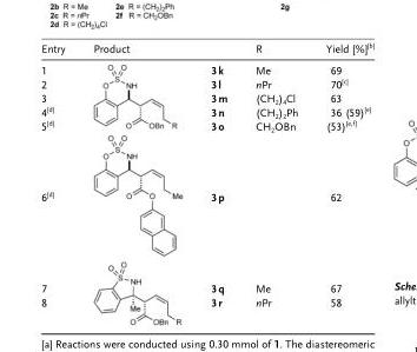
<table><thead><tr><td>Entry</td><td>Product</td><td></td><td>R</td><td>Yield [%]<sup>[b]</sup></td></tr></thead><tbody><tr><td>1 2 3 4<sup>[d]</sup> 5<sup>[d]</sup></td><td></td><td>3k 3l 3m 3n 3o</td><td>Me nPr (CH<sub>2</sub>)<sub>4</sub>Cl (CH<sub>2</sub>)<sub>2</sub>Ph CH<sub>2</sub>OBn</td><td>69 70<sup>[c]</sup> 63 36 (59)<sup>[e]</sup> (53)<sup>[e,f]</sup></td></tr><tr><td>6<sup>[d]</sup></td><td></td><td>3p</td><td></td><td>62</td></tr><tr><td>7 8</td><td></td><td>3q 3r</td><td>Me nPr</td><td>67 58</td></tr></tbody></table>